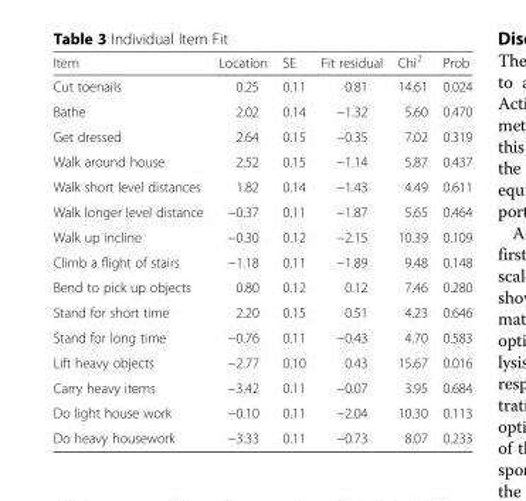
<table><thead><tr><td>Item</td><td>Location</td><td>SE</td><td>Fit residual</td><td>Chi<sup>2</sup></td><td>Prob</td></tr></thead><tbody><tr><td>Cut toenails</td><td>0.25</td><td>0.11</td><td>0.81</td><td>14.61</td><td>0.024</td></tr><tr><td>Bathe</td><td>2.02</td><td>0.14</td><td>−1.32</td><td>5.60</td><td>0.470</td></tr><tr><td>Get dressed</td><td>2.64</td><td>0.15</td><td>−0.35</td><td>7.02</td><td>0.319</td></tr><tr><td>Walk around house</td><td>2.52</td><td>0.15</td><td>−1.14</td><td>5.87</td><td>0.437</td></tr><tr><td>Walk short level distances</td><td>1.82</td><td>0.14</td><td>−1.43</td><td>4.49</td><td>0.611</td></tr><tr><td>Walk longer level distance</td><td>−0.37</td><td>0.11</td><td>−1.87</td><td>5.65</td><td>0.464</td></tr><tr><td>Walk up incline</td><td>−0.30</td><td>0.12</td><td>−2.15</td><td>10.39</td><td>0.109</td></tr><tr><td>Climb a flight of stairs</td><td>−1.18</td><td>0.11</td><td>−1.89</td><td>9.48</td><td>0.148</td></tr><tr><td>Bend to pick up objects</td><td>0.80</td><td>0.12</td><td>0.12</td><td>7.46</td><td>0.280</td></tr><tr><td>Stand for short time</td><td>2.20</td><td>0.15</td><td>0.51</td><td>4.23</td><td>0.646</td></tr><tr><td>Stand for long time</td><td>−0.76</td><td>0.11</td><td>−0.43</td><td>4.70</td><td>0.583</td></tr><tr><td>Lift heavy objects</td><td>−2.77</td><td>0.10</td><td>0.43</td><td>15.67</td><td>0.016</td></tr><tr><td>Carry heavy items</td><td>−3.42</td><td>0.11</td><td>−0.07</td><td>3.95</td><td>0.684</td></tr><tr><td>Do light house work</td><td>−0.10</td><td>0.11</td><td>−2.04</td><td>10.30</td><td>0.113</td></tr><tr><td>Do heavy housework</td><td>−3.33</td><td>0.11</td><td>−0.73</td><td>8.07</td><td>0.233</td></tr></tbody></table>